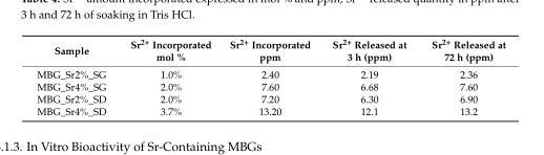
<table><thead><tr><td>Sample</td><td>Sr<sup>2+</sup> Incorporated mol %</td><td>Sr<sup>2+</sup> Incorporated ppm</td><td>Sr<sup>2+</sup> Released at 3 h (ppm)</td><td>Sr<sup>2+</sup> Released at 72 h (ppm)</td></tr></thead><tbody><tr><td>MBG_Sr2%_SG</td><td>1.0%</td><td>2.40</td><td>2.19</td><td>2.36</td></tr><tr><td>MBG_Sr4%_SG</td><td>2.0%</td><td>7.60</td><td>6.68</td><td>7.60</td></tr><tr><td>MBG_Sr2%_SD</td><td>2.0%</td><td>7.20</td><td>6.30</td><td>6.90</td></tr><tr><td>MBG_Sr4%_SD</td><td>3.7%</td><td>13.20</td><td>12.1</td><td>13.2</td></tr></tbody></table>